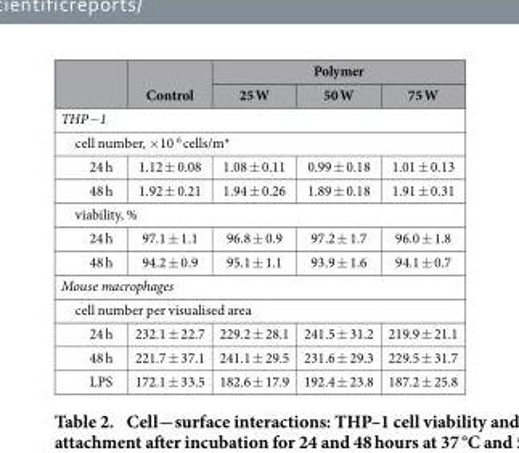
<table><thead><tr><td rowspan="2"></td><td rowspan="2">Control</td><td colspan="3">Polymer</td></tr><tr><td>25 W</td><td>50 W</td><td>75 W</td></tr></thead><tbody><tr><td colspan="5">THP−1</td></tr><tr><td colspan="5">cell number, × 10 <sup>6</sup> cells/m*</td></tr><tr><td>24 h</td><td>1.12 ± 0.08</td><td>1.08 ± 0.11</td><td>0.99 ± 0.18</td><td>1.01 ± 0.13</td></tr><tr><td>48 h</td><td>1.92 ± 0.21</td><td>1.94 ± 0.26</td><td>1.89 ± 0.18</td><td>1.91 ± 0.31</td></tr><tr><td colspan="5">viability, %</td></tr><tr><td>24 h</td><td>97.1 ± 1.1</td><td>96.8 ± 0.9</td><td>97.2 ± 1.7</td><td>96.0 ± 1.8</td></tr><tr><td>48 h</td><td>94.2 ± 0.9</td><td>95.1 ± 1.1</td><td>93.9 ± 1.6</td><td>94.1 ± 0.7</td></tr><tr><td colspan="5">Mouse macrophages</td></tr><tr><td colspan="5">cell number per visualised area</td></tr><tr><td>24 h</td><td>232.1 ± 22.7</td><td>229.2 ± 28.1</td><td>241.5 ± 31.2</td><td>219.9 ± 21.1</td></tr><tr><td>48 h</td><td>221.7 ± 37.1</td><td>241.1 ± 29.5</td><td>231.6 ± 29.3</td><td>229.5 ± 31.7</td></tr><tr><td>LPS</td><td>172.1 ± 33.5</td><td>182.6 ± 17.9</td><td>192.4 ± 23.8</td><td>187.2 ± 25.8</td></tr></tbody></table>